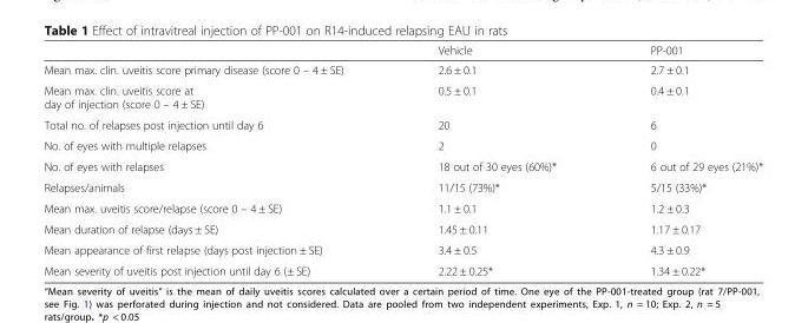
<table><thead><tr><td></td><td>Vehicle</td><td>PP-001</td></tr></thead><tbody><tr><td>Mean max. clin. uveitis score primary disease (score 0 – 4 ± SE)</td><td>2.6 ± 0.1</td><td>2.7 ± 0.1</td></tr><tr><td>Mean max. clin. uveitis score at day of injection (score 0 – 4 ± SE)</td><td>0.5 ± 0.1</td><td>0.4 ± 0.1</td></tr><tr><td>Total no. of relapses post injection until day 6</td><td>20</td><td>6</td></tr><tr><td>No. of eyes with multiple relapses</td><td>2</td><td>0</td></tr><tr><td>No. of eyes with relapses</td><td>18 out of 30 eyes (60%)*</td><td>6 out of 29 eyes (21%)*</td></tr><tr><td>Relapses/animals</td><td>11/15 (73%)*</td><td>5/15 (33%)*</td></tr><tr><td>Mean max. uveitis score/relapse (score 0 – 4 ± SE)</td><td>1.1 ± 0.1</td><td>1.2 ± 0.3</td></tr><tr><td>Mean duration of relapse (days ± SE)</td><td>1.45 ± 0.11</td><td>1.17 ± 0.17</td></tr><tr><td>Mean appearance of first relapse (days post injection ± SE)</td><td>3.4 ± 0.5</td><td>4.3 ± 0.9</td></tr><tr><td>Mean severity of uveitis post injection until day 6 (± SE)</td><td>2.22 ± 0.25*</td><td>1.34 ± 0.22*</td></tr></tbody></table>